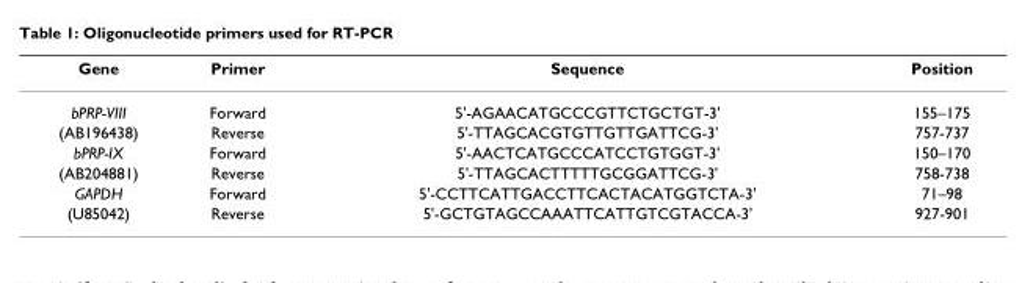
<table><thead><tr><td>Gene</td><td>Primer</td><td>Sequence</td><td>Position</td></tr></thead><tbody><tr><td>bPRP-VIII</td><td>Forward</td><td>5&#x27;-AGAACATGCCCGTTCTGCTGT-3&#x27;</td><td>155–175</td></tr><tr><td>(AB196438)</td><td>Reverse</td><td>5&#x27;-TTAGCACGTGTTGTTGATTCG-3&#x27;</td><td>757-737</td></tr><tr><td>bPRP-IX</td><td>Forward</td><td>5&#x27;-AACTCATGCCCATCCTGTGGT-3&#x27;</td><td>150–170</td></tr><tr><td>(AB204881)</td><td>Reverse</td><td>5&#x27;-TTAGCACTTTTTGCGGATTCG-3&#x27;</td><td>758-738</td></tr><tr><td>GAPDH</td><td>Forward</td><td>5&#x27;-CCTTCATTGACCTTCACTACATGGTCTA-3&#x27;</td><td>71–98</td></tr><tr><td>(U85042)</td><td>Reverse</td><td>5&#x27;-GCTGTAGCCAAATTCATTGTCGTACCA-3&#x27;</td><td>927-901</td></tr></tbody></table>